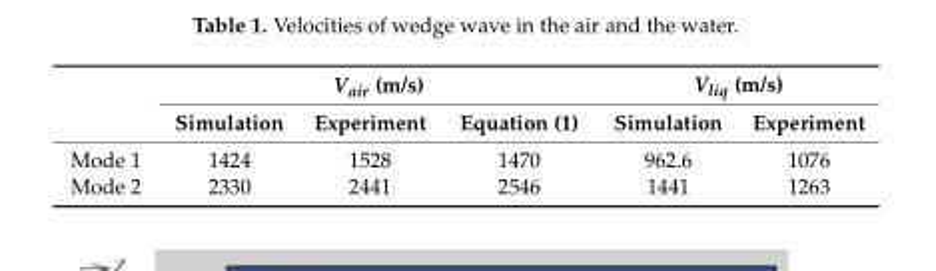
<table><thead><tr><td rowspan="2"></td><td colspan="3">V<sub>air</sub> (m/s)</td><td colspan="2">V<sub>liq</sub> (m/s)</td></tr><tr><td>Simulation</td><td>Experiment</td><td>Equation (1)</td><td>Simulation</td><td>Experiment</td></tr></thead><tbody><tr><td>Mode 1</td><td>1424</td><td>1528</td><td>1470</td><td>962.6</td><td>1076</td></tr><tr><td>Mode 2</td><td>2330</td><td>2441</td><td>2546</td><td>1441</td><td>1263</td></tr></tbody></table>